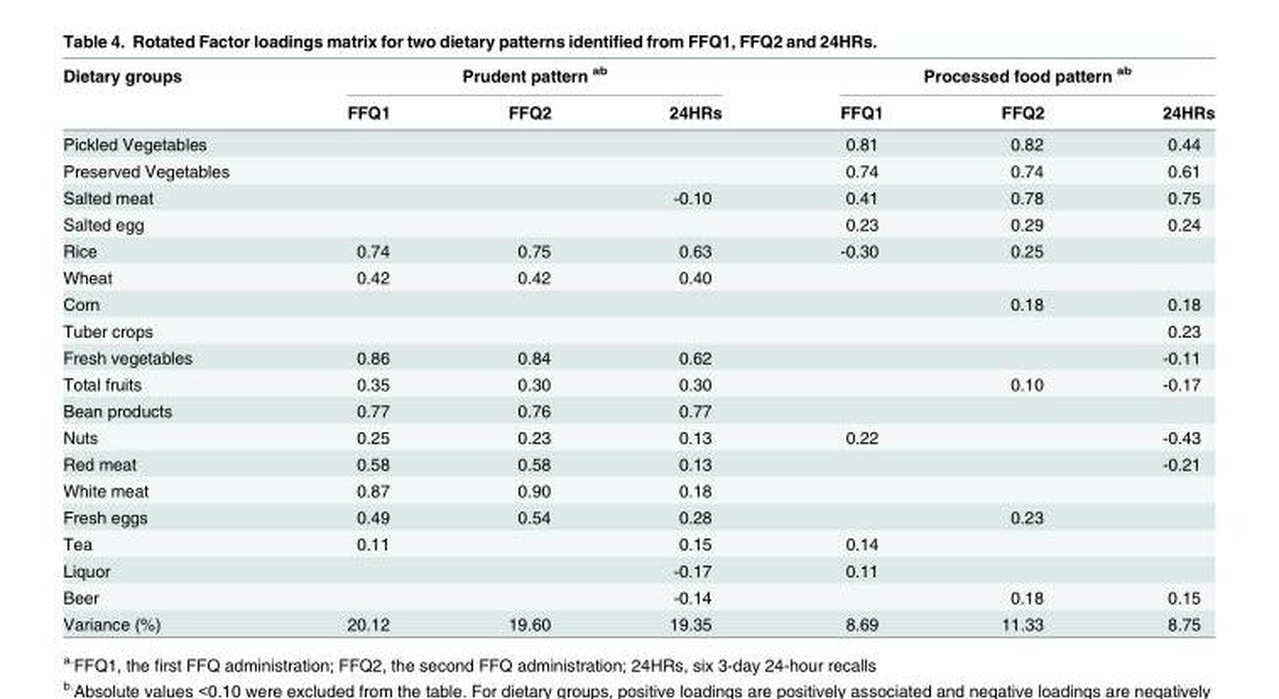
<table><thead><tr><td rowspan="2">Dietary groups</td><td colspan="3">Prudent pattern <sup>ab</sup></td><td colspan="3">Processed food pattern <sup>ab</sup></td></tr><tr><td>FFQ1</td><td>FFQ2</td><td>24HRs</td><td>FFQ1</td><td>FFQ2</td><td>24HRs</td></tr></thead><tbody><tr><td>Pickled Vegetables</td><td></td><td></td><td></td><td>0.81</td><td>0.82</td><td>0.44</td></tr><tr><td>Preserved Vegetables</td><td></td><td></td><td></td><td>0.74</td><td>0.74</td><td>0.61</td></tr><tr><td>Salted meat</td><td></td><td></td><td>-0.10</td><td>0.41</td><td>0.78</td><td>0.75</td></tr><tr><td>Salted egg</td><td></td><td></td><td></td><td>0.23</td><td>0.29</td><td>0.24</td></tr><tr><td>Rice</td><td>0.74</td><td>0.75</td><td>0.63</td><td>-0.30</td><td>0.25</td><td></td></tr><tr><td>Wheat</td><td>0.42</td><td>0.42</td><td>0.40</td><td></td><td></td><td></td></tr><tr><td>Corn</td><td></td><td></td><td></td><td></td><td>0.18</td><td>0.18</td></tr><tr><td>Tuber crops</td><td></td><td></td><td></td><td></td><td></td><td>0.23</td></tr><tr><td>Fresh vegetables</td><td>0.86</td><td>0.84</td><td>0.62</td><td></td><td></td><td>-0.11</td></tr><tr><td>Total fruits</td><td>0.35</td><td>0.30</td><td>0.30</td><td></td><td>0.10</td><td>-0.17</td></tr><tr><td>Bean products</td><td>0.77</td><td>0.76</td><td>0.77</td><td></td><td></td><td></td></tr><tr><td>Nuts</td><td>0.25</td><td>0.23</td><td>0.13</td><td>0.22</td><td></td><td>-0.43</td></tr><tr><td>Red meat</td><td>0.58</td><td>0.58</td><td>0.13</td><td></td><td></td><td>-0.21</td></tr><tr><td>White meat</td><td>0.87</td><td>0.90</td><td>0.18</td><td></td><td></td><td></td></tr><tr><td>Fresh eggs</td><td>0.49</td><td>0.54</td><td>0.28</td><td></td><td>0.23</td><td></td></tr><tr><td>Tea</td><td>0.11</td><td></td><td>0.15</td><td>0.14</td><td></td><td></td></tr><tr><td>Liquor</td><td></td><td></td><td>-0.17</td><td>0.11</td><td></td><td></td></tr><tr><td>Beer</td><td></td><td></td><td>-0.14</td><td></td><td>0.18</td><td>0.15</td></tr><tr><td>Variance (%)</td><td>20.12</td><td>19.60</td><td>19.35</td><td>8.69</td><td>11.33</td><td>8.75</td></tr></tbody></table>